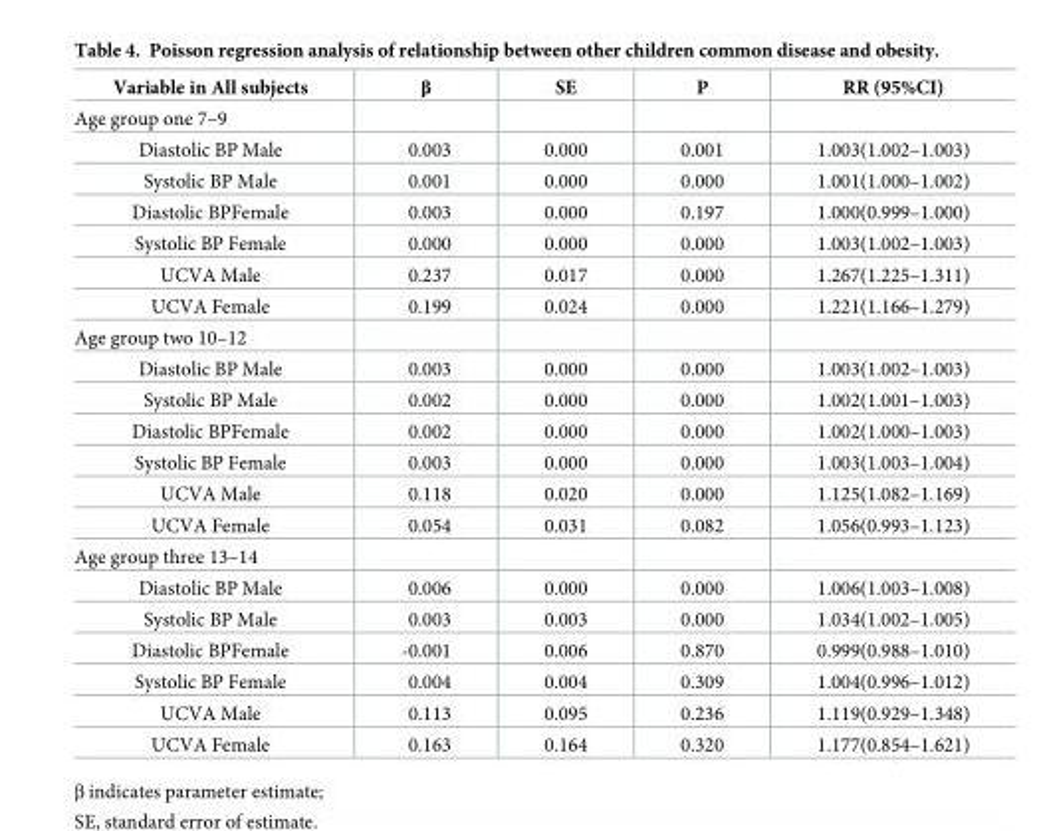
<table><thead><tr><td>Variable in All subjects</td><td>β</td><td>SE</td><td>P</td><td>RR (95%CI)</td></tr></thead><tbody><tr><td colspan="5">Age group one 7–9</td></tr><tr><td>Diastolic BP Male</td><td>0.003</td><td>0.000</td><td>0.001</td><td>1.003(1.002–1.003)</td></tr><tr><td>Systolic BP Male</td><td>0.001</td><td>0.000</td><td>0.000</td><td>1.001(1.000–1.002)</td></tr><tr><td>Diastolic BPFemale</td><td>0.003</td><td>0.000</td><td>0.197</td><td>1.000(0.999–1.000)</td></tr><tr><td>Systolic BP Female</td><td>0.000</td><td>0.000</td><td>0.000</td><td>1.003(1.002–1.003)</td></tr><tr><td>UCVA Male</td><td>0.237</td><td>0.017</td><td>0.000</td><td>1.267(1.225–1.311)</td></tr><tr><td>UCVA Female</td><td>0.199</td><td>0.024</td><td>0.000</td><td>1.221(1.166–1.279)</td></tr><tr><td colspan="5">Age group two 10–12</td></tr><tr><td>Diastolic BP Male</td><td>0.003</td><td>0.000</td><td>0.000</td><td>1.003(1.002–1.003)</td></tr><tr><td>Systolic BP Male</td><td>0.002</td><td>0.000</td><td>0.000</td><td>1.002(1.001–1.003)</td></tr><tr><td>Diastolic BPFemale</td><td>0.002</td><td>0.000</td><td>0.000</td><td>1.002(1.000–1.003)</td></tr><tr><td>Systolic BP Female</td><td>0.003</td><td>0.000</td><td>0.000</td><td>1.003(1.003–1.004)</td></tr><tr><td>UCVA Male</td><td>0.118</td><td>0.020</td><td>0.000</td><td>1.125(1.082–1.169)</td></tr><tr><td>UCVA Female</td><td>0.054</td><td>0.031</td><td>0.082</td><td>1.056(0.993–1.123)</td></tr><tr><td colspan="5">Age group three 13–14</td></tr><tr><td>Diastolic BP Male</td><td>0.006</td><td>0.000</td><td>0.000</td><td>1.006(1.003–1.008)</td></tr><tr><td>Systolic BP Male</td><td>0.003</td><td>0.003</td><td>0.000</td><td>1.034(1.002–1.005)</td></tr><tr><td>Diastolic BPFemale</td><td>-0.001</td><td>0.006</td><td>0.870</td><td>0.999(0.988–1.010)</td></tr><tr><td>Systolic BP Female</td><td>0.004</td><td>0.004</td><td>0.309</td><td>1.004(0.996–1.012)</td></tr><tr><td>UCVA Male</td><td>0.113</td><td>0.095</td><td>0.236</td><td>1.119(0.929–1.348)</td></tr><tr><td>UCVA Female</td><td>0.163</td><td>0.164</td><td>0.320</td><td>1.177(0.854–1.621)</td></tr></tbody></table>